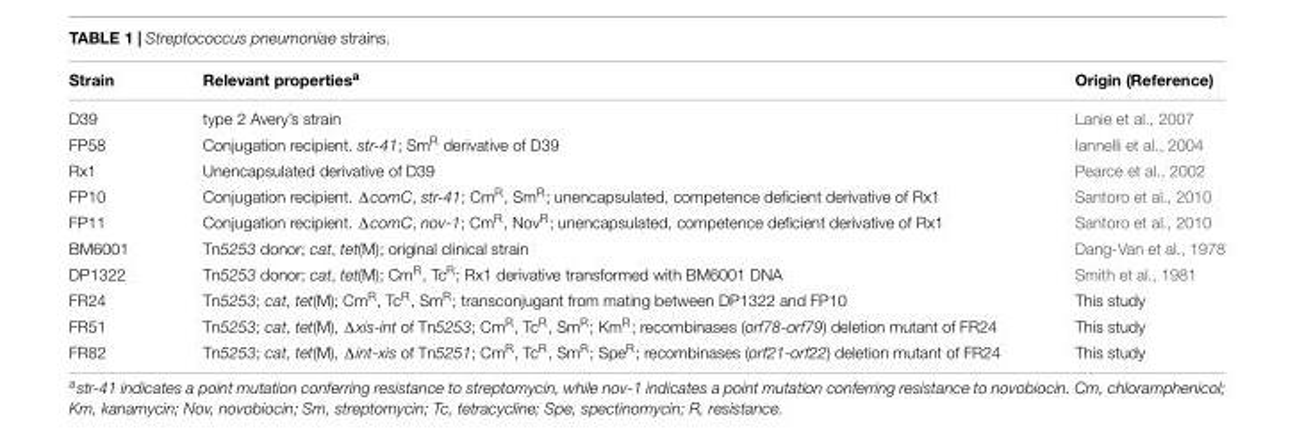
<table><thead><tr><td>Strain</td><td>Relevant properties<sup>a</sup></td><td>Origin (Reference)</td></tr></thead><tbody><tr><td>D39</td><td>type 2 Avery’s strain</td><td>Lanie et al., 2007</td></tr><tr><td>FP58</td><td>Conjugation recipient. str-41; Sm<sup>R</sup> derivative of D39</td><td>Iannelli et al., 2004</td></tr><tr><td>Rx1</td><td>Unencapsulated derivative of D39</td><td>Pearce et al., 2002</td></tr><tr><td>FP10</td><td>Conjugation recipient. ΔcomC, str-41; Cm<sup>R</sup>, Sm<sup>R</sup>; unencapsulated, competence deficient derivative of Rx1</td><td>Santoro et al., 2010</td></tr><tr><td>FP11</td><td>Conjugation recipient. ΔcomC, nov-1; Cm<sup>R</sup>, Nov<sup>R</sup>; unencapsulated, competence deficient derivative of Rx1</td><td>Santoro et al., 2010</td></tr><tr><td>BM6001</td><td>Tn5253 donor; cat, tet(M); original clinical strain</td><td>Dang-Van et al., 1978</td></tr><tr><td>DP1322</td><td>Tn5253 donor; cat, tet(M); Cm<sup>R</sup>, Tc<sup>R</sup>; Rx1 derivative transformed with BM6001 DNA</td><td>Smith et al., 1981</td></tr><tr><td>FR24</td><td>Tn5253; cat, tet(M); Cm<sup>R</sup>, Tc<sup>R</sup>, Sm<sup>R</sup>; transconjugant from mating between DP1322 and FP10</td><td>This study</td></tr><tr><td>FR51</td><td>Tn5253; cat, tet(M), Δxis-int of Tn5253; Cm<sup>R</sup>, Tc<sup>R</sup>, Sm<sup>R</sup>; Km<sup>R</sup>; recombinases (orf78-orf79) deletion mutant of FR24</td><td>This study</td></tr><tr><td>FR82</td><td>Tn5253; cat, tet(M), Δint-xis of Tn5251; Cm<sup>R</sup>, Tc<sup>R</sup>, Sm<sup>R</sup>; Spe<sup>R</sup>; recombinases (orf21-orf22) deletion mutant of FR24</td><td>This study</td></tr></tbody></table>